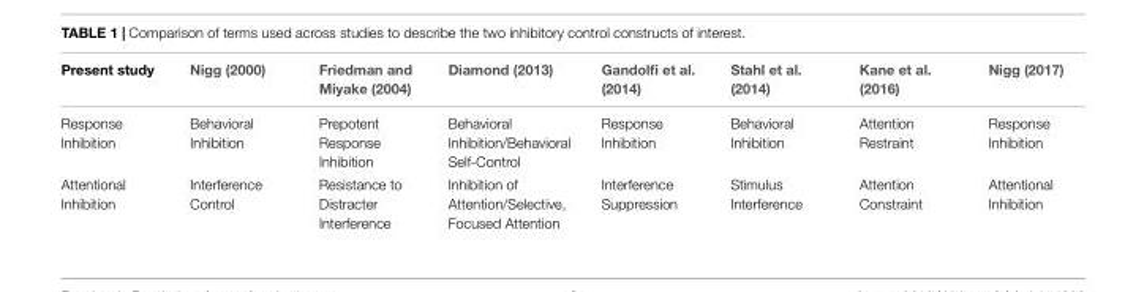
<table><thead><tr><td>Present study</td><td>Nigg (2000)</td><td>Friedman and Miyake (2004)</td><td>Diamond (2013)</td><td>Gandolfi et al. (2014)</td><td>Stahl et al. (2014)</td><td>Kane et al. (2016)</td><td>Nigg (2017)</td></tr></thead><tbody><tr><td>Response Inhibition</td><td>Behavioral Inhibition</td><td>Prepotent Response Inhibition</td><td>Behavioral Inhibition/Behavioral Self-Control</td><td>Response Inhibition</td><td>Behavioral Inhibition</td><td>Attention Restraint</td><td>Response Inhibition</td></tr><tr><td>Attentional Inhibition</td><td>Interference Control</td><td>Resistance to Distracter Interference</td><td>Inhibition of Attention/Selective, Focused Attention</td><td>Interference Suppression</td><td>Stimulus Interference</td><td>Attention Constraint</td><td>Attentional Inhibition</td></tr></tbody></table>